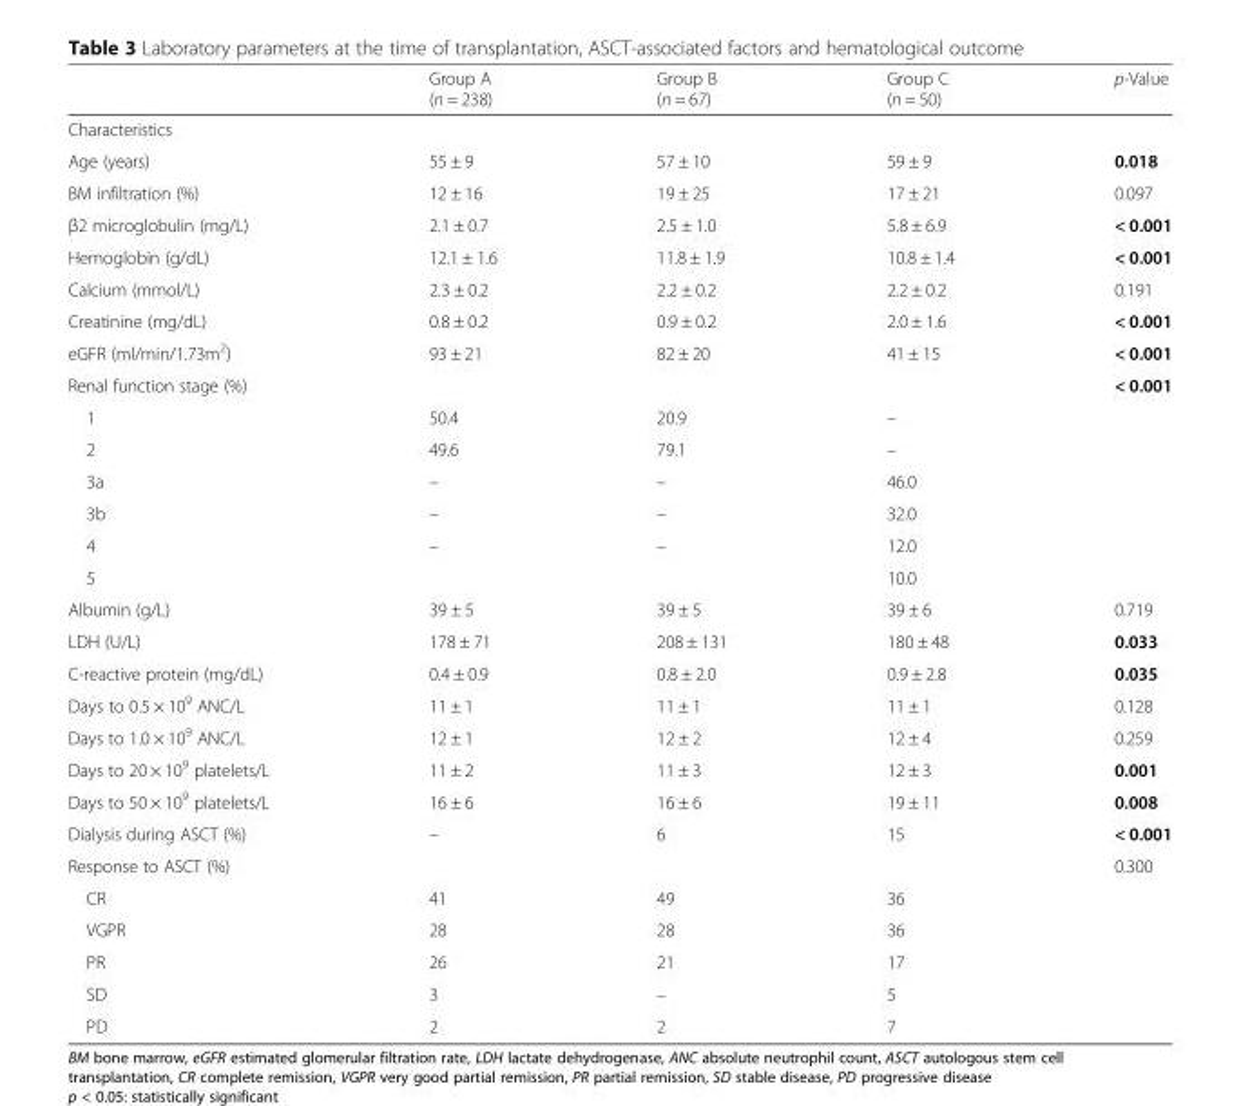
<table><thead><tr><td></td><td>Group A (n = 238)</td><td>Group B (n = 67)</td><td>Group C (n = 50)</td><td>p-Value</td></tr></thead><tbody><tr><td colspan="5">Characteristics</td></tr><tr><td>Age (years)</td><td>55 ± 9</td><td>57 ± 10</td><td>59 ± 9</td><td>0.018</td></tr><tr><td>BM infiltration (%)</td><td>12 ± 16</td><td>19 ± 25</td><td>17 ± 21</td><td>0.097</td></tr><tr><td>β2 microglobulin (mg/L)</td><td>2.1 ± 0.7</td><td>2.5 ± 1.0</td><td>5.8 ± 6.9</td><td>&lt; 0.001</td></tr><tr><td>Hemoglobin (g/dL)</td><td>12.1 ± 1.6</td><td>11.8 ± 1.9</td><td>10.8 ± 1.4</td><td>&lt; 0.001</td></tr><tr><td>Calcium (mmol/L)</td><td>2.3 ± 0.2</td><td>2.2 ± 0.2</td><td>2.2 ± 0.2</td><td>0.191</td></tr><tr><td>Creatinine (mg/dL)</td><td>0.8 ± 0.2</td><td>0.9 ± 0.2</td><td>2.0 ± 1.6</td><td>&lt; 0.001</td></tr><tr><td>eGFR (ml/min/1.73m<sup>2</sup>)</td><td>93 ± 21</td><td>82 ± 20</td><td>41 ± 15</td><td>&lt; 0.001</td></tr><tr><td>Renal function stage (%)</td><td></td><td></td><td></td><td>&lt; 0.001</td></tr><tr><td>1</td><td>50.4</td><td>20.9</td><td>–</td><td></td></tr><tr><td>2</td><td>49.6</td><td>79.1</td><td>–</td><td></td></tr><tr><td>3a</td><td>–</td><td>–</td><td>46.0</td><td></td></tr><tr><td>3b</td><td>–</td><td>–</td><td>32.0</td><td></td></tr><tr><td>4</td><td>–</td><td>–</td><td>12.0</td><td></td></tr><tr><td>5</td><td></td><td></td><td>10.0</td><td></td></tr><tr><td>Albumin (g/L)</td><td>39 ± 5</td><td>39 ± 5</td><td>39 ± 6</td><td>0.719</td></tr><tr><td>LDH (U/L)</td><td>178 ± 71</td><td>208 ± 131</td><td>180 ± 48</td><td>0.033</td></tr><tr><td>C-reactive protein (mg/dL)</td><td>0.4 ± 0.9</td><td>0.8 ± 2.0</td><td>0.9 ± 2.8</td><td>0.035</td></tr><tr><td>Days to 0.5 × 10<sup>9</sup> ANC/L</td><td>11 ± 1</td><td>11 ± 1</td><td>11 ± 1</td><td>0.128</td></tr><tr><td>Days to 1.0 × 10<sup>9</sup> ANC/L</td><td>12 ± 1</td><td>12 ± 2</td><td>12 ± 4</td><td>0.259</td></tr><tr><td>Days to 20 × 10<sup>9</sup> platelets/L</td><td>11 ± 2</td><td>11 ± 3</td><td>12 ± 3</td><td>0.001</td></tr><tr><td>Days to 50 × 10<sup>9</sup> platelets/L</td><td>16 ± 6</td><td>16 ± 6</td><td>19 ± 11</td><td>0.008</td></tr><tr><td>Dialysis during ASCT (%)</td><td>–</td><td>6</td><td>15</td><td>&lt; 0.001</td></tr><tr><td>Response to ASCT (%)</td><td></td><td></td><td></td><td>0.300</td></tr><tr><td>CR</td><td>41</td><td>49</td><td>36</td><td></td></tr><tr><td>VGPR</td><td>28</td><td>28</td><td>36</td><td></td></tr><tr><td>PR</td><td>26</td><td>21</td><td>17</td><td></td></tr><tr><td>SD</td><td>3</td><td>–</td><td>5</td><td></td></tr><tr><td>PD</td><td>2</td><td>2</td><td>7</td><td></td></tr></tbody></table>